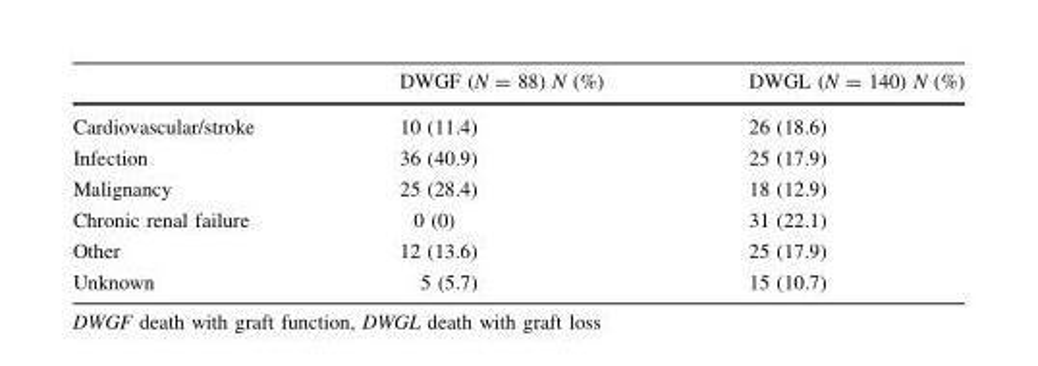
<table><thead><tr><td></td><td>DWGF (N = 88) N (%)</td><td>DWGL (N = 140) N (%)</td></tr></thead><tbody><tr><td>Cardiovascular/stroke</td><td>10 (11.4)</td><td>26 (18.6)</td></tr><tr><td>Infection</td><td>36 (40.9)</td><td>25 (17.9)</td></tr><tr><td>Malignancy</td><td>25 (28.4)</td><td>18 (12.9)</td></tr><tr><td>Chronic renal failure</td><td>0 (0)</td><td>31 (22.1)</td></tr><tr><td>Other</td><td>12 (13.6)</td><td>25 (17.9)</td></tr><tr><td>Unknown</td><td>5 (5.7)</td><td>15 (10.7)</td></tr></tbody></table>